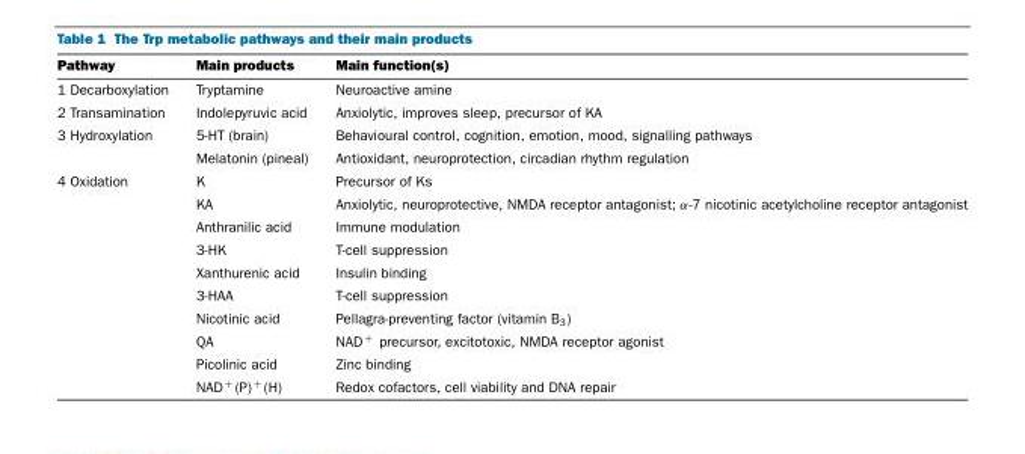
<table><thead><tr><td>Pathway</td><td>Main products</td><td>Main function(s)</td></tr></thead><tbody><tr><td>1 Decarboxylation</td><td>Tryptamine</td><td>Neuroactive amine</td></tr><tr><td>2 Transamination</td><td>Indolepyruvic acid</td><td>Anxiolytic, improves sleep, precursor of KA</td></tr><tr><td rowspan="2">3 Hydroxylation</td><td>5-HT (brain)</td><td>Behavioural control, cognition, emotion, mood, signalling pathways</td></tr><tr><td>Melatonin (pineal)</td><td>Antioxidant, neuroprotection, circadian rhythm regulation</td></tr><tr><td rowspan="10">4 Oxidation</td><td>K</td><td>Precursor of Ks</td></tr><tr><td>KA</td><td>Anxiolytic, neuroprotective, NMDA receptor antagonist; α-7 nicotinic acetylcholine receptor antagonist</td></tr><tr><td>Anthranilic acid</td><td>Immune modulation</td></tr><tr><td>3-HK</td><td>T-cell suppression</td></tr><tr><td>Xanthurenic acid</td><td>Insulin binding</td></tr><tr><td>3-HAA</td><td>T-cell suppression</td></tr><tr><td>Nicotinic acid</td><td>Pellagra-preventing factor (vitamin B3)</td></tr><tr><td>QA</td><td>NAD + precursor, excitotoxic, NMDA receptor agonist</td></tr><tr><td>Picolinic acid</td><td>Zinc binding</td></tr><tr><td>NAD + (P) + (H)</td><td>Redox cofactors, cell viability and DNA repair</td></tr></tbody></table>